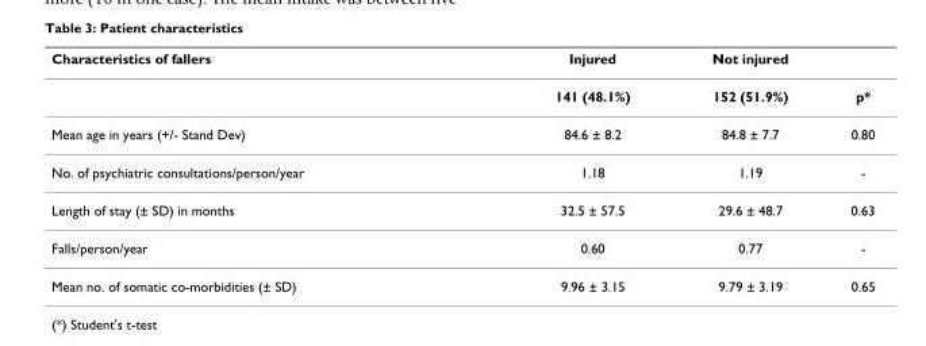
<table><thead><tr><td>Characteristics of fallers</td><td>Injured</td><td>Not injured</td><td></td></tr></thead><tbody><tr><td></td><td>141 (48.1%)</td><td>152 (51.9%)</td><td>p*</td></tr><tr><td>Mean age in years (+/- Stand Dev)</td><td>84.6 ± 8.2</td><td>84.8 ± 7.7</td><td>0.80</td></tr><tr><td>No. of psychiatric consultations/person/year</td><td>1.18</td><td>1.19</td><td>-</td></tr><tr><td>Length of stay (± SD) in months</td><td>32.5 ± 57.5</td><td>29.6 ± 48.7</td><td>0.63</td></tr><tr><td>Falls/person/year</td><td>0.60</td><td>0.77</td><td>-</td></tr><tr><td>Mean no. of somatic co-morbidities (± SD)</td><td>9.96 ± 3.15</td><td>9.79 ± 3.19</td><td>0.65</td></tr></tbody></table>